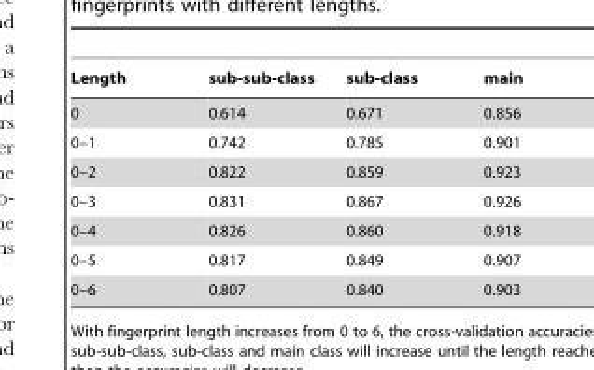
<table><thead><tr><td>Length</td><td>sub-sub-class</td><td>sub-class</td><td>main</td></tr></thead><tbody><tr><td>0</td><td>0.614</td><td>0.671</td><td>0.856</td></tr><tr><td>0–1</td><td>0.742</td><td>0.785</td><td>0.901</td></tr><tr><td>0–2</td><td>0.822</td><td>0.859</td><td>0.923</td></tr><tr><td>0–3</td><td>0.831</td><td>0.867</td><td>0.926</td></tr><tr><td>0–4</td><td>0.826</td><td>0.860</td><td>0.918</td></tr><tr><td>0–5</td><td>0.817</td><td>0.849</td><td>0.907</td></tr><tr><td>0–6</td><td>0.807</td><td>0.840</td><td>0.903</td></tr></tbody></table>